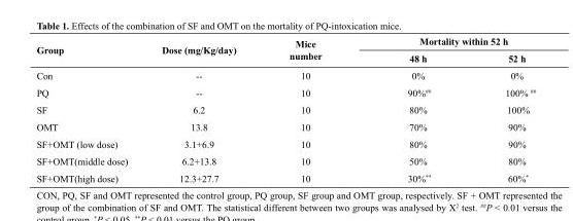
<table><thead><tr><td rowspan="2">Group</td><td rowspan="2">Dose (mg/Kg/day)</td><td rowspan="2">Mice number</td><td colspan="2">Mortality within 52 h</td></tr><tr><td>48 h</td><td>52 h</td></tr></thead><tbody><tr><td>Con</td><td>--</td><td>10</td><td>0%</td><td>0%</td></tr><tr><td>PQ</td><td>--</td><td>10</td><td>90%##</td><td>100% ##</td></tr><tr><td>SF</td><td>6.2</td><td>10</td><td>80%</td><td>100%</td></tr><tr><td>OMT</td><td>13.8</td><td>10</td><td>70%</td><td>90%</td></tr><tr><td>SF+OMT (low dose)</td><td>3.1+6.9</td><td>10</td><td>80%</td><td>90%</td></tr><tr><td>SF+OMT(middle dose)</td><td>6.2+13.8</td><td>10</td><td>50%</td><td>80%</td></tr><tr><td>SF+OMT(high dose)</td><td>12.3+27.7</td><td>10</td><td>30%**</td><td>60%*</td></tr></tbody></table>